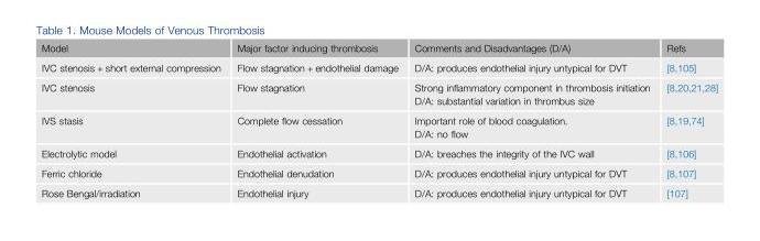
<table><thead><tr><td>Model</td><td>Major factor inducing thrombosis</td><td>Comments and Disadvantages (D/A)</td><td>Refs</td></tr></thead><tbody><tr><td>IVC stenosis + short external compression</td><td>Flow stagnation + endothelial damage</td><td>D/A: produces endothelial injury untypical for DVT</td><td>[8,105]</td></tr><tr><td>IVC stenosis</td><td>Flow stagnation</td><td>Strong inflammatory component in thrombosis initiation D/A: substantial variation in thrombus size</td><td>[8,20,21,28]</td></tr><tr><td>IVS stasis</td><td>Complete flow cessation</td><td>Important role of blood coagulation. D/A: no flow</td><td>[8,19,74]</td></tr><tr><td>Electrolytic model</td><td>Endothelial activation</td><td>D/A: breaches the integrity of the IVC wall</td><td>[8,106]</td></tr><tr><td>Ferric chloride</td><td>Endothelial denudation</td><td>D/A: produces endothelial injury untypical for DVT</td><td>[8,107]</td></tr><tr><td>Rose Bengal/irradiation</td><td>Endothelial injury</td><td>D/A: produces endothelial injury untypical for DVT</td><td>[107]</td></tr></tbody></table>